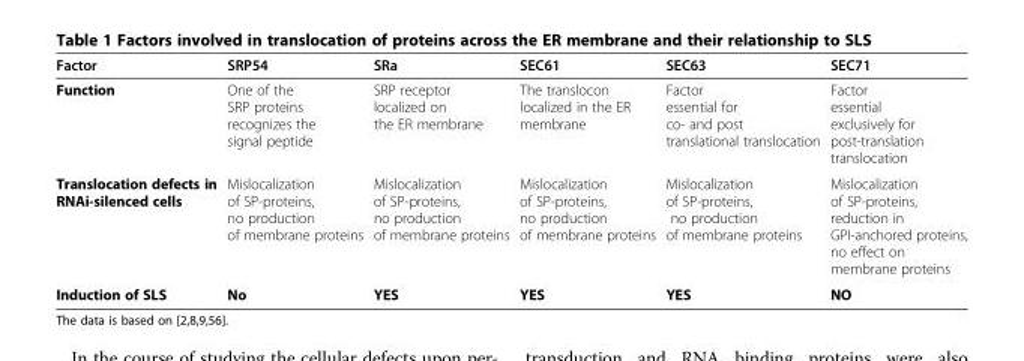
<table><thead><tr><td>Factor</td><td>SRP54</td><td>SRa</td><td>SEC61</td><td>SEC63</td><td>SEC71</td></tr></thead><tbody><tr><td>Function</td><td>One of the SRP proteins recognizes the signal peptide</td><td>SRP receptor localized on the ER membrane</td><td>The translocon localized in the ER membrane</td><td>Factor essential for co- and post translational translocation</td><td>Factor essential exclusively for post-translation translocation</td></tr><tr><td>Translocation defects in RNAi-silenced cells</td><td>Mislocalization of SP-proteins, no production of membrane proteins</td><td>Mislocalization of SP-proteins, no production of membrane proteins</td><td>Mislocalization of SP-proteins, no production of membrane proteins</td><td>Mislocalization of SP-proteins, no production of membrane proteins</td><td>Mislocalization of SP-proteins, reduction in GPI-anchored proteins, no effect on membrane proteins</td></tr><tr><td>Induction of SLS</td><td>No</td><td>YES</td><td>YES</td><td>YES</td><td>NO</td></tr></tbody></table>